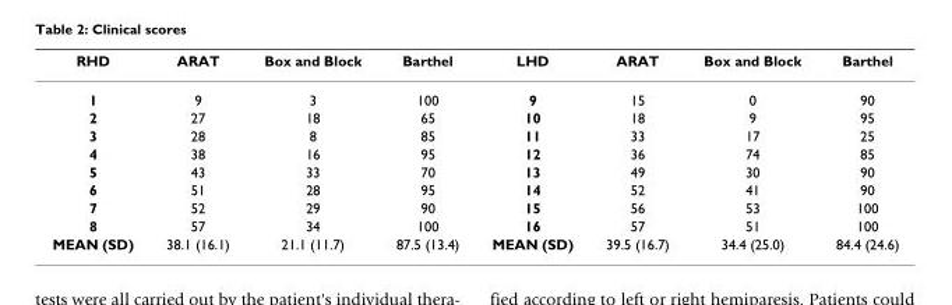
<table><thead><tr><td>RHD</td><td>ARAT</td><td>Box and Block</td><td>Barthel</td><td>LHD</td><td>ARAT</td><td>Box and Block</td><td>Barthel</td></tr></thead><tbody><tr><td>1</td><td>9</td><td>3</td><td>100</td><td>9</td><td>15</td><td>0</td><td>90</td></tr><tr><td>2</td><td>27</td><td>18</td><td>65</td><td>10</td><td>18</td><td>9</td><td>95</td></tr><tr><td>3</td><td>28</td><td>8</td><td>85</td><td>11</td><td>33</td><td>17</td><td>25</td></tr><tr><td>4</td><td>38</td><td>16</td><td>95</td><td>12</td><td>36</td><td>74</td><td>85</td></tr><tr><td>5</td><td>43</td><td>33</td><td>70</td><td>13</td><td>49</td><td>30</td><td>90</td></tr><tr><td>6</td><td>51</td><td>28</td><td>95</td><td>14</td><td>52</td><td>41</td><td>90</td></tr><tr><td>7</td><td>52</td><td>29</td><td>90</td><td>15</td><td>56</td><td>53</td><td>100</td></tr><tr><td>8</td><td>57</td><td>34</td><td>100</td><td>16</td><td>57</td><td>51</td><td>100</td></tr><tr><td>MEAN (SD)</td><td>38.1 (16.1)</td><td>21.1 (11.7)</td><td>87.5 (13.4)</td><td>MEAN (SD)</td><td>39.5 (16.7)</td><td>34.4 (25.0)</td><td>84.4 (24.6)</td></tr></tbody></table>